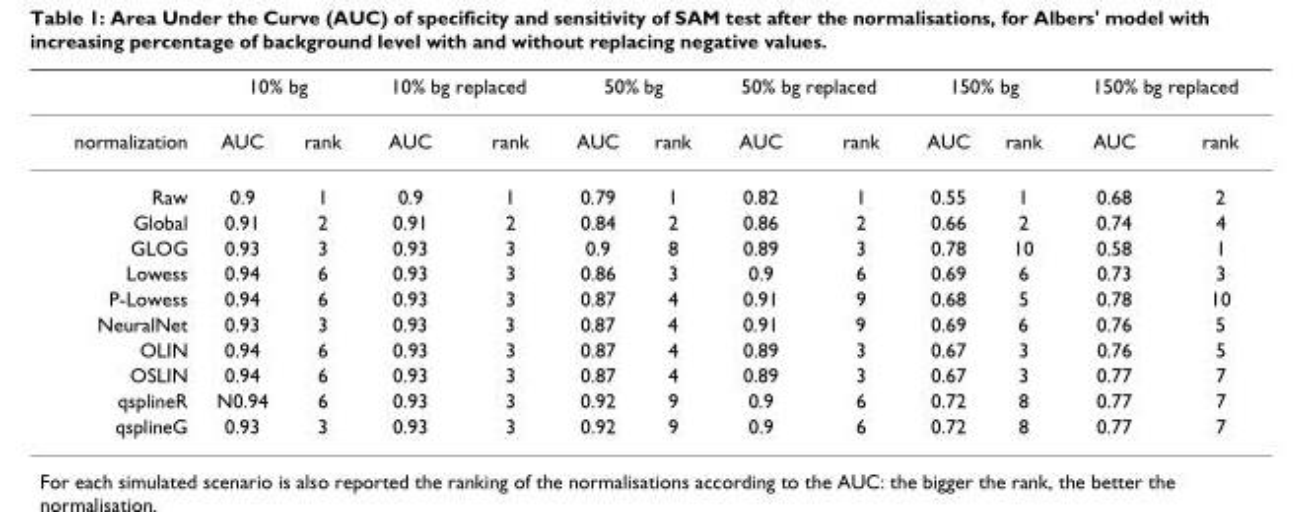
<table><thead><tr><td rowspan="2">normalization</td><td colspan="2">10% bg</td><td colspan="2">10% bg replaced</td><td colspan="2">50% bg</td><td colspan="2">50% bg replaced</td><td colspan="2">150% bg</td><td colspan="2">150% bg replaced</td></tr><tr><td>AUC</td><td>rank</td><td>AUC</td><td>rank</td><td>AUC</td><td>rank</td><td>AUC</td><td>rank</td><td>AUC</td><td>rank</td><td>AUC</td><td>rank</td></tr></thead><tbody><tr><td>Raw</td><td>0.9</td><td>1</td><td>0.9</td><td>1</td><td>0.79</td><td>1</td><td>0.82</td><td>1</td><td>0.55</td><td>1</td><td>0.68</td><td>2</td></tr><tr><td>Global</td><td>0.91</td><td>2</td><td>0.91</td><td>2</td><td>0.84</td><td>2</td><td>0.86</td><td>2</td><td>0.66</td><td>2</td><td>0.74</td><td>4</td></tr><tr><td>GLOG</td><td>0.93</td><td>3</td><td>0.93</td><td>3</td><td>0.9</td><td>8</td><td>0.89</td><td>3</td><td>0.78</td><td>10</td><td>0.58</td><td>1</td></tr><tr><td>Lowess</td><td>0.94</td><td>6</td><td>0.93</td><td>3</td><td>0.86</td><td>3</td><td>0.9</td><td>6</td><td>0.69</td><td>6</td><td>0.73</td><td>3</td></tr><tr><td>P-Lowess</td><td>0.94</td><td>6</td><td>0.93</td><td>3</td><td>0.87</td><td>4</td><td>0.91</td><td>9</td><td>0.68</td><td>5</td><td>0.78</td><td>10</td></tr><tr><td>NeuralNet</td><td>0.93</td><td>3</td><td>0.93</td><td>3</td><td>0.87</td><td>4</td><td>0.91</td><td>9</td><td>0.69</td><td>6</td><td>0.76</td><td>5</td></tr><tr><td>OLIN</td><td>0.94</td><td>6</td><td>0.93</td><td>3</td><td>0.87</td><td>4</td><td>0.89</td><td>3</td><td>0.67</td><td>3</td><td>0.76</td><td>5</td></tr><tr><td>OSLIN</td><td>0.94</td><td>6</td><td>0.93</td><td>3</td><td>0.87</td><td>4</td><td>0.89</td><td>3</td><td>0.67</td><td>3</td><td>0.77</td><td>7</td></tr><tr><td>qsplineR</td><td>N0.94</td><td>6</td><td>0.93</td><td>3</td><td>0.92</td><td>9</td><td>0.9</td><td>6</td><td>0.72</td><td>8</td><td>0.77</td><td>7</td></tr><tr><td>qsplineG</td><td>0.93</td><td>3</td><td>0.93</td><td>3</td><td>0.92</td><td>9</td><td>0.9</td><td>6</td><td>0.72</td><td>8</td><td>0.77</td><td>7</td></tr></tbody></table>